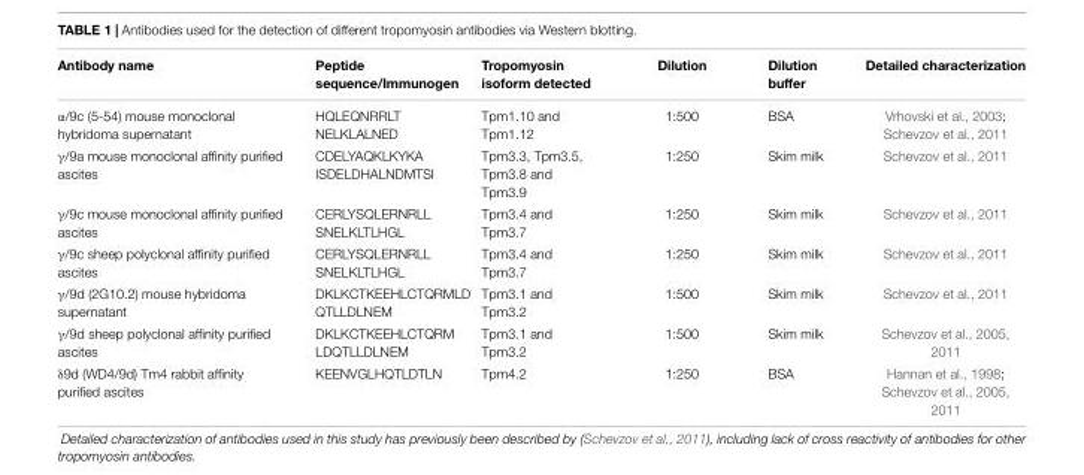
<table><thead><tr><td>Antibody name</td><td>Peptide sequence/Immunogen</td><td>Tropomyosin isoform detected</td><td>Dilution</td><td>Dilution buffer</td><td>Detailed characterization</td></tr></thead><tbody><tr><td>α/9c (5-54) mouse monoclonal hybridoma supernatant</td><td>HQLEQNRRLT NELKLALNED</td><td>Tpm1.10 and Tpm1.12</td><td>1:500</td><td>BSA</td><td>Vrhovski et al., 2003; Schevzov et al., 2011</td></tr><tr><td>γ/9a mouse monoclonal affinity purified ascites</td><td>CDELYAQKLKYKA ISDELDHALNDMTSI</td><td>Tpm3.3, Tpm3.5, Tpm3.8 and Tpm3.9</td><td>1:250</td><td>Skim milk</td><td>Schevzov et al., 2011</td></tr><tr><td>γ/9c mouse monoclonal affinity purified ascites</td><td>CERLYSQLERNRLL SNELKLTLHGL</td><td>Tpm3.4 and Tpm3.7</td><td>1:250</td><td>Skim milk</td><td>Schevzov et al., 2011</td></tr><tr><td>γ/9c sheep polyclonal affinity purified ascites</td><td>CERLYSQLERNRLL SNELKLTLHGL</td><td>Tpm3.4 and Tpm3.7</td><td>1:250</td><td>Skim milk</td><td>Schevzov et al., 2011</td></tr><tr><td>γ/9d (2G10.2) mouse hybridoma supernatant</td><td>DKLKCTKEEHLCTQRMLD QTLLDLNEM</td><td>Tpm3.1 and Tpm3.2</td><td>1:500</td><td>Skim milk</td><td>Schevzov et al., 2011</td></tr><tr><td>γ/9d sheep polyclonal affinity purified ascites</td><td>DKLKCTKEEHLCTQRM LDQTLLDLNEM</td><td>Tpm3.1 and Tpm3.2</td><td>1:500</td><td>Skim milk</td><td>Schevzov et al., 2005, 2011</td></tr><tr><td>δ9d (WD4/9d) Tm4 rabbit affinity purified ascites</td><td>KEENVGLHQTLDTLN</td><td>Tpm4.2</td><td>1:250</td><td>BSA</td><td>Hannan et al., 1998; Schevzov et al., 2005, 2011</td></tr></tbody></table>